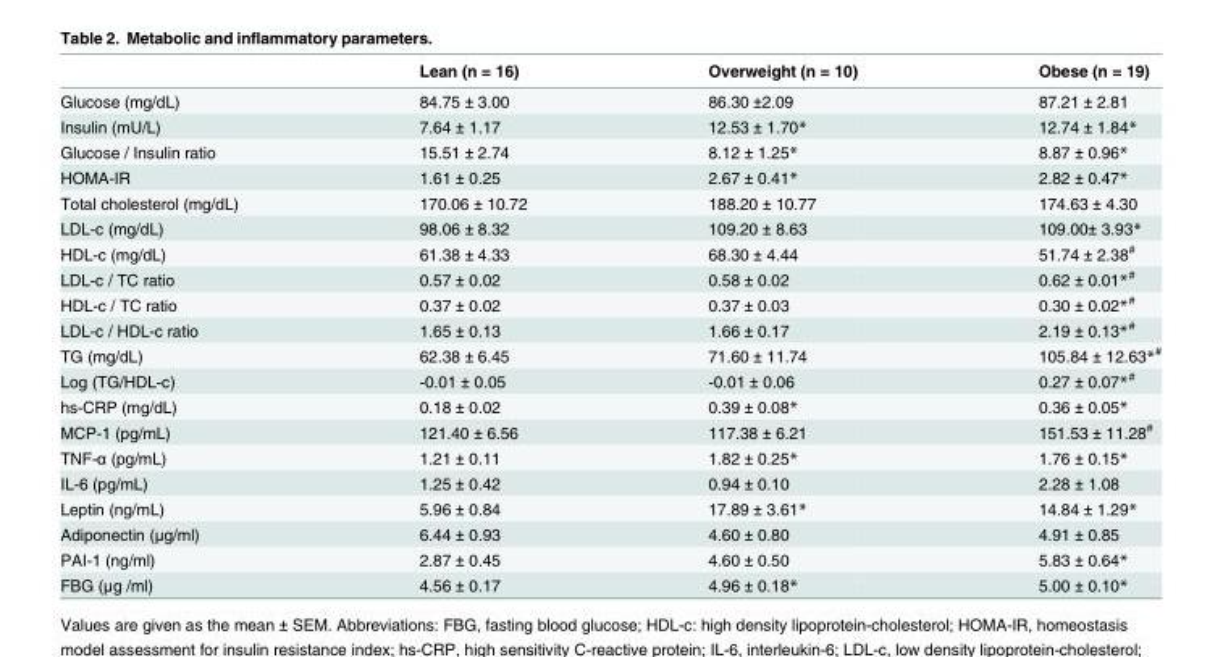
<table><thead><tr><td></td><td>Lean (n = 16)</td><td>Overweight (n = 10)</td><td>Obese (n = 19)</td></tr></thead><tbody><tr><td>Glucose (mg/dL)</td><td>84.75 ± 3.00</td><td>86.30 ±2.09</td><td>87.21 ± 2.81</td></tr><tr><td>Insulin (mU/L)</td><td>7.64 ± 1.17</td><td>12.53 ± 1.70*</td><td>12.74 ± 1.84*</td></tr><tr><td>Glucose / Insulin ratio</td><td>15.51 ± 2.74</td><td>8.12 ± 1.25*</td><td>8.87 ± 0.96*</td></tr><tr><td>HOMA-IR</td><td>1.61 ± 0.25</td><td>2.67 ± 0.41*</td><td>2.82 ± 0.47*</td></tr><tr><td>Total cholesterol (mg/dL)</td><td>170.06 ± 10.72</td><td>188.20 ± 10.77</td><td>174.63 ± 4.30</td></tr><tr><td>LDL-c (mg/dL)</td><td>98.06 ± 8.32</td><td>109.20 ± 8.63</td><td>109.00± 3.93*</td></tr><tr><td>HDL-c (mg/dL)</td><td>61.38 ± 4.33</td><td>68.30 ± 4.44</td><td>51.74 ± 2.38<sup>#</sup></td></tr><tr><td>LDL-c / TC ratio</td><td>0.57 ± 0.02</td><td>0.58 ± 0.02</td><td>0.62 ± 0.01*<sup>#</sup></td></tr><tr><td>HDL-c / TC ratio</td><td>0.37 ± 0.02</td><td>0.37 ± 0.03</td><td>0.30 ± 0.02*<sup>#</sup></td></tr><tr><td>LDL-c / HDL-c ratio</td><td>1.65 ± 0.13</td><td>1.66 ± 0.17</td><td>2.19 ± 0.13*<sup>#</sup></td></tr><tr><td>TG (mg/dL)</td><td>62.38 ± 6.45</td><td>71.60 ± 11.74</td><td>105.84 ± 12.63*<sup>#</sup></td></tr><tr><td>Log (TG/HDL-c)</td><td>-0.01 ± 0.05</td><td>-0.01 ± 0.06</td><td>0.27 ± 0.07*<sup>#</sup></td></tr><tr><td>hs-CRP (mg/dL)</td><td>0.18 ± 0.02</td><td>0.39 ± 0.08*</td><td>0.36 ± 0.05*</td></tr><tr><td>MCP-1 (pg/mL)</td><td>121.40 ± 6.56</td><td>117.38 ± 6.21</td><td>151.53 ± 11.28<sup>#</sup></td></tr><tr><td>TNF-α (pg/mL)</td><td>1.21 ± 0.11</td><td>1.82 ± 0.25*</td><td>1.76 ± 0.15*</td></tr><tr><td>IL-6 (pg/mL)</td><td>1.25 ± 0.42</td><td>0.94 ± 0.10</td><td>2.28 ± 1.08</td></tr><tr><td>Leptin (ng/mL)</td><td>5.96 ± 0.84</td><td>17.89 ± 3.61*</td><td>14.84 ± 1.29*</td></tr><tr><td>Adiponectin (μg/ml)</td><td>6.44 ± 0.93</td><td>4.60 ± 0.80</td><td>4.91 ± 0.85</td></tr><tr><td>PAI-1 (ng/ml)</td><td>2.87 ± 0.45</td><td>4.60 ± 0.50</td><td>5.83 ± 0.64*</td></tr><tr><td>FBG (μg /ml)</td><td>4.56 ± 0.17</td><td>4.96 ± 0.18*</td><td>5.00 ± 0.10*</td></tr></tbody></table>